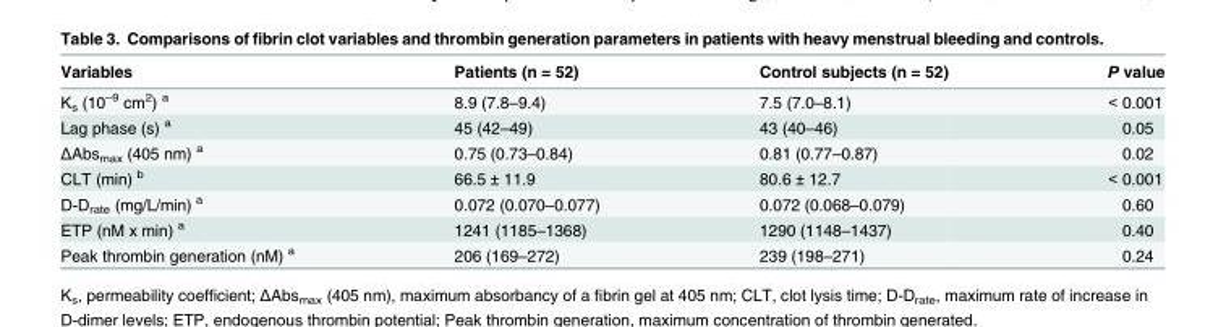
<table><thead><tr><td>Variables</td><td>Patients (n = 52)</td><td>Control subjects (n = 52)</td><td>P value</td></tr></thead><tbody><tr><td>K<sub>s</sub> (10<sup>–9</sup> cm<sup>2</sup>) <sup>a</sup></td><td>8.9 (7.8–9.4)</td><td>7.5 (7.0–8.1)</td><td>&lt; 0.001</td></tr><tr><td>Lag phase (s) <sup>a</sup></td><td>45 (42–49)</td><td>43 (40–46)</td><td>0.05</td></tr><tr><td>ΔAbs<sub>max</sub> (405 nm) <sup>a</sup></td><td>0.75 (0.73–0.84)</td><td>0.81 (0.77–0.87)</td><td>0.02</td></tr><tr><td>CLT (min) <sup>b</sup></td><td>66.5 ± 11.9</td><td>80.6 ± 12.7</td><td>&lt; 0.001</td></tr><tr><td>D-D<sub>rate</sub> (mg/L/min) <sup>a</sup></td><td>0.072 (0.070–0.077)</td><td>0.072 (0.068–0.079)</td><td>0.60</td></tr><tr><td>ETP (nM x min) <sup>a</sup></td><td>1241 (1185–1368)</td><td>1290 (1148–1437)</td><td>0.40</td></tr><tr><td>Peak thrombin generation (nM) <sup>a</sup></td><td>206 (169–272)</td><td>239 (198–271)</td><td>0.24</td></tr></tbody></table>